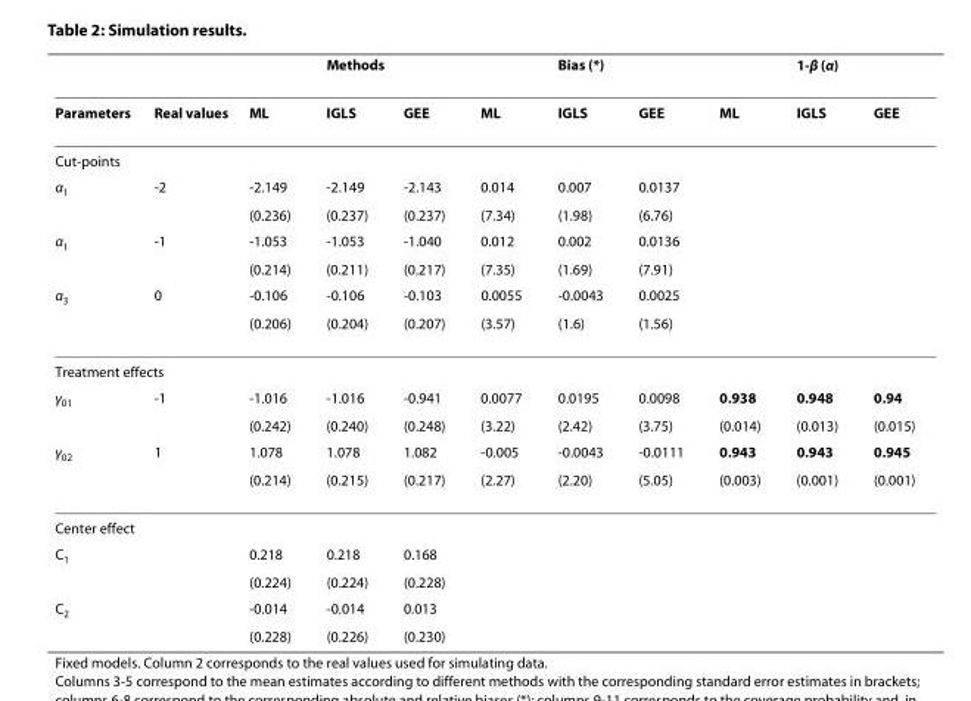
<table><thead><tr><td></td><td></td><td></td><td>Methods</td><td></td><td></td><td>Bias (*)</td><td></td><td></td><td>1-β (α)</td><td></td></tr></thead><tbody><tr><td>Parameters</td><td>Real values</td><td>ML</td><td>IGLS</td><td>GEE</td><td>ML</td><td>IGLS</td><td>GEE</td><td>ML</td><td>IGLS</td><td>GEE</td></tr><tr><td colspan="11">Cut-points</td></tr><tr><td rowspan="2">α<sub>1</sub></td><td>-2</td><td>-2.149</td><td>-2.149</td><td>-2.143</td><td>0.014</td><td>0.007</td><td>0.0137</td><td></td><td></td><td></td></tr><tr><td></td><td>(0.236)</td><td>(0.237)</td><td>(0.237)</td><td>(7.34)</td><td>(1.98)</td><td>(6.76)</td><td></td><td></td><td></td></tr><tr><td rowspan="2">α<sub>1</sub></td><td>-1</td><td>-1.053</td><td>-1.053</td><td>-1.040</td><td>0.012</td><td>0.002</td><td>0.0136</td><td></td><td></td><td></td></tr><tr><td></td><td>(0.214)</td><td>(0.211)</td><td>(0.217)</td><td>(7.35)</td><td>(1.69)</td><td>(7.91)</td><td></td><td></td><td></td></tr><tr><td rowspan="2">α<sub>3</sub></td><td>0</td><td>-0.106</td><td>-0.106</td><td>-0.103</td><td>0.0055</td><td>-0.0043</td><td>0.0025</td><td></td><td></td><td></td></tr><tr><td></td><td>(0.206)</td><td>(0.204)</td><td>(0.207)</td><td>(3.57)</td><td>(1.6)</td><td>(1.56)</td><td></td><td></td><td></td></tr><tr><td colspan="11">Treatment effects</td></tr><tr><td rowspan="2">γ<sub>01</sub></td><td>-1</td><td>-1.016</td><td>-1.016</td><td>-0.941</td><td>0.0077</td><td>0.0195</td><td>0.0098</td><td>0.938</td><td>0.948</td><td>0.94</td></tr><tr><td></td><td>(0.242)</td><td>(0.240)</td><td>(0.248)</td><td>(3.22)</td><td>(2.42)</td><td>(3.75)</td><td>(0.014)</td><td>(0.013)</td><td>(0.015)</td></tr><tr><td rowspan="2">γ<sub>02</sub></td><td>1</td><td>1.078</td><td>1.078</td><td>1.082</td><td>-0.005</td><td>-0.0043</td><td>-0.0111</td><td>0.943</td><td>0.943</td><td>0.945</td></tr><tr><td></td><td>(0.214)</td><td>(0.215)</td><td>(0.217)</td><td>(2.27)</td><td>(2.20)</td><td>(5.05)</td><td>(0.003)</td><td>(0.001)</td><td>(0.001)</td></tr><tr><td colspan="11">Center effect</td></tr><tr><td rowspan="2">C<sub>1</sub></td><td></td><td>0.218</td><td>0.218</td><td>0.168</td><td></td><td></td><td></td><td></td><td></td><td></td></tr><tr><td></td><td>(0.224)</td><td>(0.224)</td><td>(0.228)</td><td></td><td></td><td></td><td></td><td></td><td></td></tr><tr><td rowspan="2">C<sub>2</sub></td><td></td><td>-0.014</td><td>-0.014</td><td>0.013</td><td></td><td></td><td></td><td></td><td></td><td></td></tr><tr><td></td><td>(0.228)</td><td>(0.226)</td><td>(0.230)</td><td></td><td></td><td></td><td></td><td></td><td></td></tr></tbody></table>